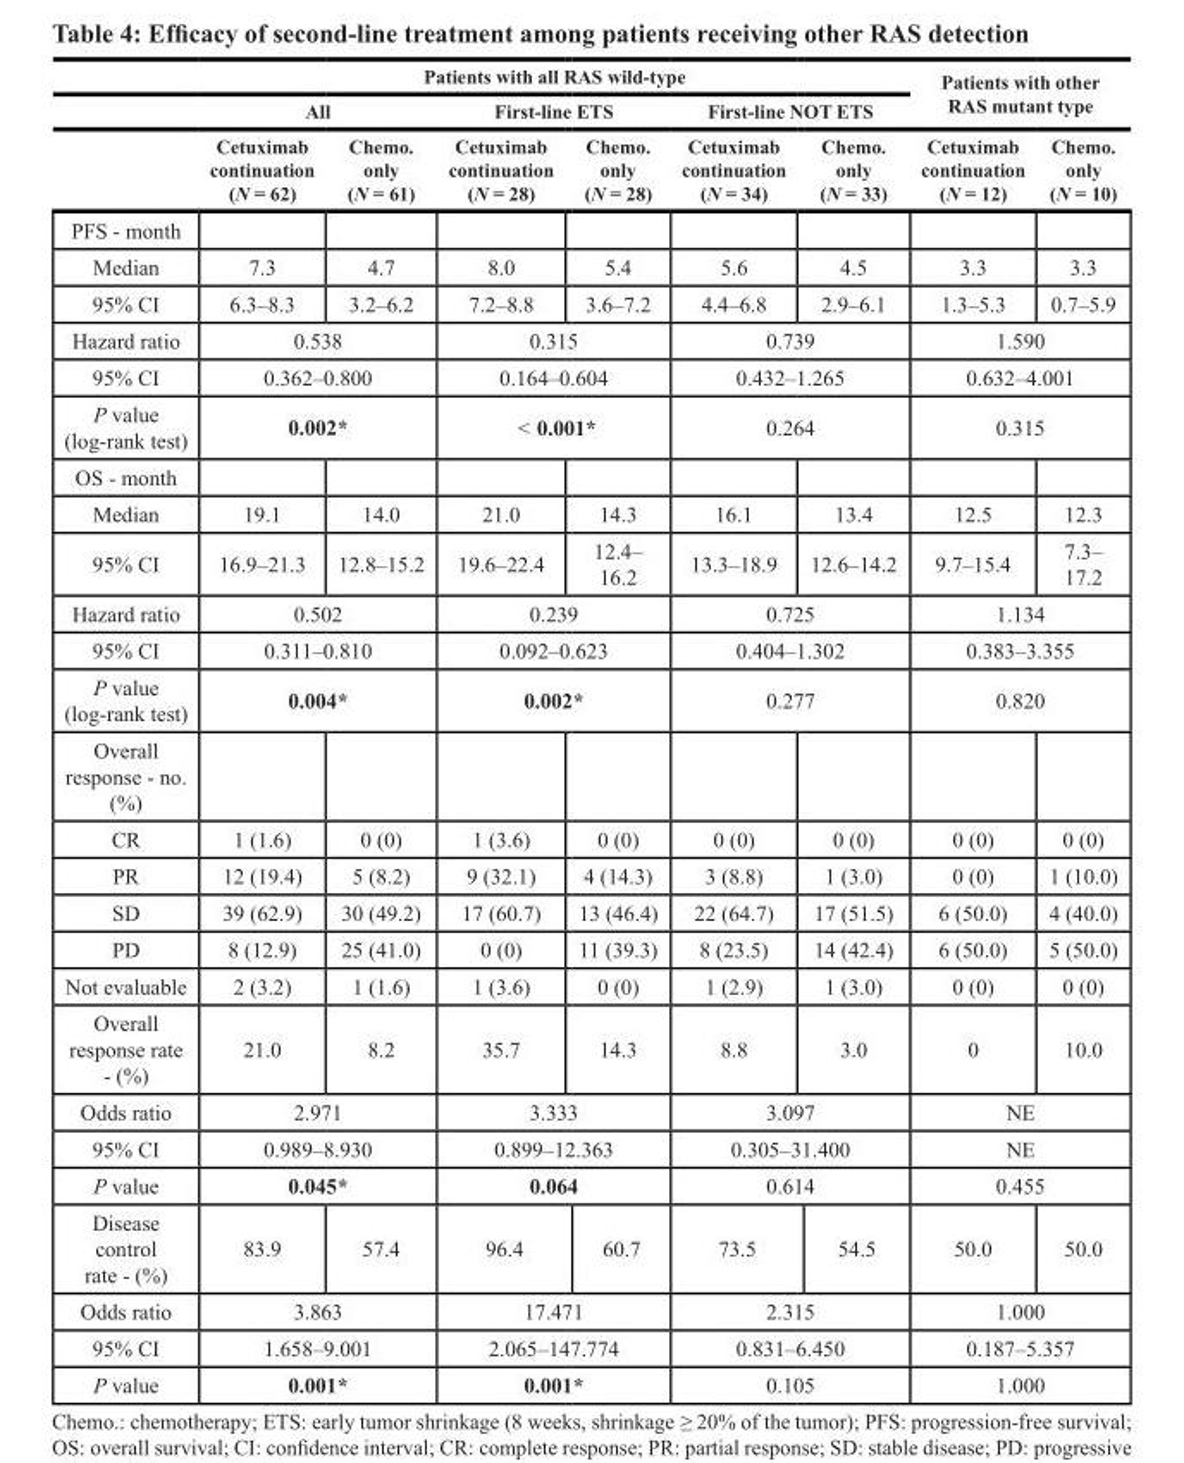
<table><thead><tr><td rowspan="3"></td><td colspan="6">Patients with all RAS wild-type</td><td rowspan="2" colspan="2">Patients with other RAS mutant type</td></tr><tr><td colspan="2">All</td><td colspan="2">First-line ETS</td><td colspan="2">First-line NOT ETS</td></tr><tr><td>Cetuximab continuation (N = 62)</td><td>Chemo. only (N = 61)</td><td>Cetuximab continuation (N = 28)</td><td>Chemo. only (N = 28)</td><td>Cetuximab continuation (N = 34)</td><td>Chemo. only (N = 33)</td><td>Cetuximab continuation (N = 12)</td><td>Chemo. only (N = 10)</td></tr></thead><tbody><tr><td colspan="9">PFS - month</td></tr><tr><td>Median</td><td>7.3</td><td>4.7</td><td>8.0</td><td>5.4</td><td>5.6</td><td>4.5</td><td>3.3</td><td>3.3</td></tr><tr><td>95% CI</td><td>6.3–8.3</td><td>3.2–6.2</td><td>7.2–8.8</td><td>3.6–7.2</td><td>4.4–6.8</td><td>2.9–6.1</td><td>1.3–5.3</td><td>0.7–5.9</td></tr><tr><td>Hazard ratio</td><td colspan="2">0.538</td><td colspan="2">0.315</td><td colspan="2">0.739</td><td colspan="2">1.590</td></tr><tr><td>95% CI</td><td colspan="2">0.362–0.800</td><td colspan="2">0.164–0.604</td><td colspan="2">0.432–1.265</td><td colspan="2">0.632–4.001</td></tr><tr><td>P value (log-rank test)</td><td colspan="2">0.002*</td><td colspan="2">&lt; 0.001*</td><td colspan="2">0.264</td><td colspan="2">0.315</td></tr><tr><td colspan="9">OS - month</td></tr><tr><td>Median</td><td>19.1</td><td>14.0</td><td>21.0</td><td>14.3</td><td>16.1</td><td>13.4</td><td>12.5</td><td>12.3</td></tr><tr><td>95% CI</td><td>16.9–21.3</td><td>12.8–15.2</td><td>19.6–22.4</td><td>12.4– 16.2</td><td>13.3–18.9</td><td>12.6–14.2</td><td>9.7–15.4</td><td>7.3– 17.2</td></tr><tr><td>Hazard ratio</td><td colspan="2">0.502</td><td colspan="2">0.239</td><td colspan="2">0.725</td><td colspan="2">1.134</td></tr><tr><td>95% CI</td><td colspan="2">0.311–0.810</td><td colspan="2">0.092–0.623</td><td colspan="2">0.404–1.302</td><td colspan="2">0.383–3.355</td></tr><tr><td>P value (log-rank test)</td><td colspan="2">0.004*</td><td colspan="2">0.002*</td><td colspan="2">0.277</td><td colspan="2">0.820</td></tr><tr><td colspan="9">Overall response - no. (%)</td></tr><tr><td>CR</td><td>1 (1.6)</td><td>0 (0)</td><td>1 (3.6)</td><td>0 (0)</td><td>0 (0)</td><td>0 (0)</td><td>0 (0)</td><td>0 (0)</td></tr><tr><td>PR</td><td>12 (19.4)</td><td>5 (8.2)</td><td>9 (32.1)</td><td>4 (14.3)</td><td>3 (8.8)</td><td>1 (3.0)</td><td>0 (0)</td><td>1 (10.0)</td></tr><tr><td>SD</td><td>39 (62.9)</td><td>30 (49.2)</td><td>17 (60.7)</td><td>13 (46.4)</td><td>22 (64.7)</td><td>17 (51.5)</td><td>6 (50.0)</td><td>4 (40.0)</td></tr><tr><td>PD</td><td>8 (12.9)</td><td>25 (41.0)</td><td>0 (0)</td><td>11 (39.3)</td><td>8 (23.5)</td><td>14 (42.4)</td><td>6 (50.0)</td><td>5 (50.0)</td></tr><tr><td>Not evaluable</td><td>2 (3.2)</td><td>1 (1.6)</td><td>1 (3.6)</td><td>0 (0)</td><td>1 (2.9)</td><td>1 (3.0)</td><td>0 (0)</td><td>0 (0)</td></tr><tr><td>Overall response rate - (%)</td><td>21.0</td><td>8.2</td><td>35.7</td><td>14.3</td><td>8.8</td><td>3.0</td><td>0</td><td>10.0</td></tr><tr><td>Odds ratio</td><td colspan="2">2.971</td><td colspan="2">3.333</td><td colspan="2">3.097</td><td colspan="2">NE</td></tr><tr><td>95% CI</td><td colspan="2">0.989–8.930</td><td colspan="2">0.899–12.363</td><td colspan="2">0.305–31.400</td><td colspan="2">NE</td></tr><tr><td>P value</td><td colspan="2">0.045*</td><td colspan="2">0.064</td><td colspan="2">0.614</td><td colspan="2">0.455</td></tr><tr><td>Disease control rate - (%)</td><td>83.9</td><td>57.4</td><td>96.4</td><td>60.7</td><td>73.5</td><td>54.5</td><td>50.0</td><td>50.0</td></tr><tr><td>Odds ratio</td><td colspan="2">3.863</td><td colspan="2">17.471</td><td colspan="2">2.315</td><td colspan="2">1.000</td></tr><tr><td>95% CI</td><td colspan="2">1.658–9.001</td><td colspan="2">2.065–147.774</td><td colspan="2">0.831–6.450</td><td colspan="2">0.187–5.357</td></tr><tr><td>P value</td><td colspan="2">0.001*</td><td colspan="2">0.001*</td><td colspan="2">0.105</td><td colspan="2">1.000</td></tr></tbody></table>